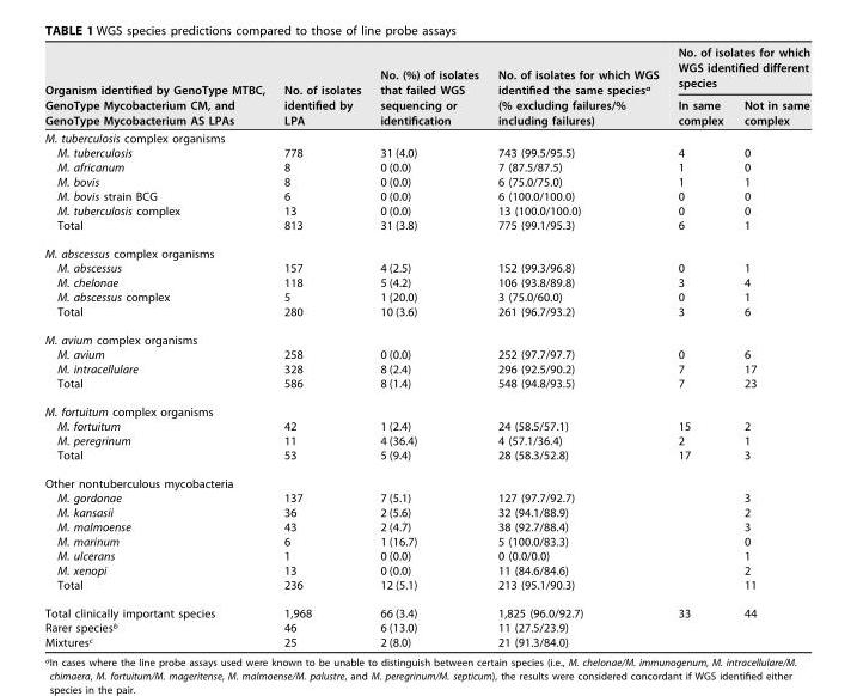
<table><thead><tr><td rowspan="2">Organism identified by GenoType MTBC, GenoType Mycobacterium CM, and GenoType Mycobacterium AS LPAs</td><td rowspan="2">No. of isolates identified by LPA</td><td rowspan="2">No. (%) of isolates that failed WGS sequencing or identification</td><td rowspan="2">No. of isolates for which WGS identified the same species<sup>a</sup> (% excluding failures/% including failures)</td><td colspan="2">No. of isolates for which WGS identified different species</td></tr><tr><td>In same complex</td><td>Not in same complex</td></tr></thead><tbody><tr><td colspan="6">M. tuberculosis complex organisms</td></tr><tr><td>M. tuberculosis</td><td>778</td><td>31 (4.0)</td><td>743 (99.5/95.5)</td><td>4</td><td>0</td></tr><tr><td>M. africanum</td><td>8</td><td>0 (0.0)</td><td>7 (87.5/87.5)</td><td>1</td><td>0</td></tr><tr><td>M. bovis</td><td>8</td><td>0 (0.0)</td><td>6 (75.0/75.0)</td><td>1</td><td>1</td></tr><tr><td>M. bovis strain BCG</td><td>6</td><td>0 (0.0)</td><td>6 (100.0/100.0)</td><td>0</td><td>0</td></tr><tr><td>M. tuberculosis complex</td><td>13</td><td>0 (0.0)</td><td>13 (100.0/100.0)</td><td>0</td><td>0</td></tr><tr><td>Total</td><td>813</td><td>31 (3.8)</td><td>775 (99.1/95.3)</td><td>6</td><td>1</td></tr><tr><td colspan="6">M. abscessus complex organisms</td></tr><tr><td>M. abscessus</td><td>157</td><td>4 (2.5)</td><td>152 (99.3/96.8)</td><td>0</td><td>1</td></tr><tr><td>M. chelonae</td><td>118</td><td>5 (4.2)</td><td>106 (93.8/89.8)</td><td>3</td><td>4</td></tr><tr><td>M. abscessus complex</td><td>5</td><td>1 (20.0)</td><td>3 (75.0/60.0)</td><td>0</td><td>1</td></tr><tr><td>Total</td><td>280</td><td>10 (3.6)</td><td>261 (96.7/93.2)</td><td>3</td><td>6</td></tr><tr><td colspan="6">M. avium complex organisms</td></tr><tr><td>M. avium</td><td>258</td><td>0 (0.0)</td><td>252 (97.7/97.7)</td><td>0</td><td>6</td></tr><tr><td>M. intracellulare</td><td>328</td><td>8 (2.4)</td><td>296 (92.5/90.2)</td><td>7</td><td>17</td></tr><tr><td>Total</td><td>586</td><td>8 (1.4)</td><td>548 (94.8/93.5)</td><td>7</td><td>23</td></tr><tr><td colspan="6">M. fortuitum complex organisms</td></tr><tr><td>M. fortuitum</td><td>42</td><td>1 (2.4)</td><td>24 (58.5/57.1)</td><td>15</td><td>2</td></tr><tr><td>M. peregrinum</td><td>11</td><td>4 (36.4)</td><td>4 (57.1/36.4)</td><td>2</td><td>1</td></tr><tr><td>Total</td><td>53</td><td>5 (9.4)</td><td>28 (58.3/52.8)</td><td>17</td><td>3</td></tr><tr><td colspan="6">Other nontuberculous mycobacteria</td></tr><tr><td>M. gordonae</td><td>137</td><td>7 (5.1)</td><td>127 (97.7/92.7)</td><td></td><td>3</td></tr><tr><td>M. kansasii</td><td>36</td><td>2 (5.6)</td><td>32 (94.1/88.9)</td><td></td><td>2</td></tr><tr><td>M. malmoense</td><td>43</td><td>2 (4.7)</td><td>38 (92.7/88.4)</td><td></td><td>3</td></tr><tr><td>M. marinum</td><td>6</td><td>1 (16.7)</td><td>5 (100.0/83.3)</td><td></td><td>0</td></tr><tr><td>M. ulcerans</td><td>1</td><td>0 (0.0)</td><td>0 (0.0/0.0)</td><td></td><td>1</td></tr><tr><td>M. xenopi</td><td>13</td><td>0 (0.0)</td><td>11 (84.6/84.6)</td><td></td><td>2</td></tr><tr><td>Total</td><td>236</td><td>12 (5.1)</td><td>213 (95.1/90.3)</td><td></td><td>11</td></tr><tr><td>Total clinically important species</td><td>1,968</td><td>66 (3.4)</td><td>1,825 (96.0/92.7)</td><td>33</td><td>44</td></tr><tr><td>Rarer species<sup>b</sup></td><td>46</td><td>6 (13.0)</td><td>11 (27.5/23.9)</td><td></td><td></td></tr><tr><td>Mixtures<sup>c</sup></td><td>25</td><td>2 (8.0)</td><td>21 (91.3/84.0)</td><td></td><td></td></tr></tbody></table>